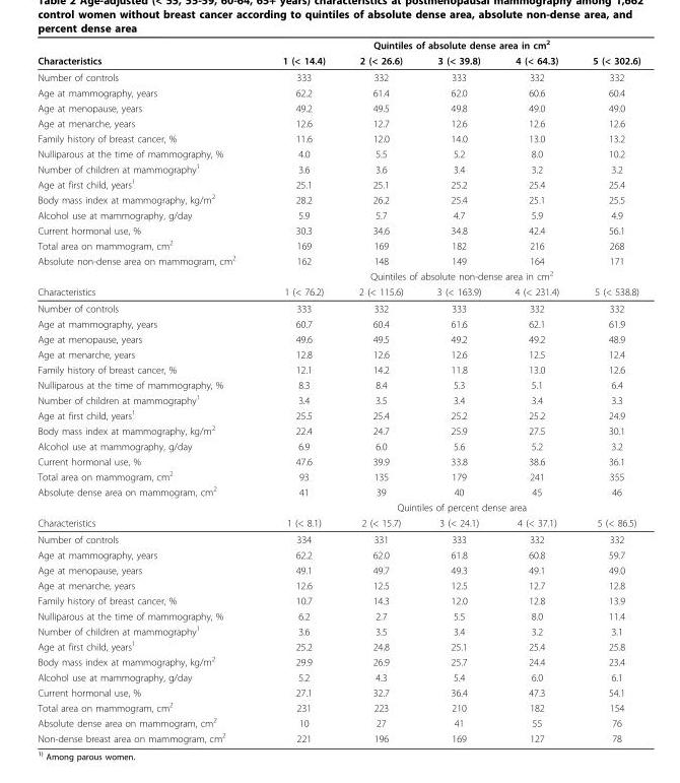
<table><thead><tr><td rowspan="2">Characteristics</td><td colspan="5">Quintiles of absolute dense area in cm<sup>2</sup></td></tr><tr><td>1 (&lt; 14.4)</td><td>2 (&lt; 26.6)</td><td>3 (&lt; 39.8)</td><td>4 (&lt; 64.3)</td><td>5 (&lt; 302.6)</td></tr></thead><tbody><tr><td>Number of controls</td><td>333</td><td>332</td><td>333</td><td>332</td><td>332</td></tr><tr><td>Age at mammography, years</td><td>62.2</td><td>61.4</td><td>62.0</td><td>60.6</td><td>60.4</td></tr><tr><td>Age at menopause, years</td><td>49.2</td><td>49.5</td><td>49.8</td><td>49.0</td><td>49.0</td></tr><tr><td>Age at menarche, years</td><td>12.6</td><td>12.7</td><td>12.6</td><td>12.6</td><td>12.6</td></tr><tr><td>Family history of breast cancer, %</td><td>11.6</td><td>12.0</td><td>14.0</td><td>13.0</td><td>13.2</td></tr><tr><td>Nulliparous at the time of mammography, %</td><td>4.0</td><td>5.5</td><td>5.2</td><td>8.0</td><td>10.2</td></tr><tr><td>Number of children at mammography<sup>1</sup></td><td>3.6</td><td>3.6</td><td>3.4</td><td>3.2</td><td>3.2</td></tr><tr><td>Age at first child, years<sup>1</sup></td><td>25.1</td><td>25.1</td><td>25.2</td><td>25.4</td><td>25.4</td></tr><tr><td>Body mass index at mammography, kg/m<sup>2</sup></td><td>28.2</td><td>26.2</td><td>25.4</td><td>25.1</td><td>25.5</td></tr><tr><td>Alcohol use at mammography, g/day</td><td>5.9</td><td>5.7</td><td>4.7</td><td>5.9</td><td>4.9</td></tr><tr><td>Current hormonal use, %</td><td>30.3</td><td>34.6</td><td>34.8</td><td>42.4</td><td>56.1</td></tr><tr><td>Total area on mammogram, cm<sup>2</sup></td><td>169</td><td>169</td><td>182</td><td>216</td><td>268</td></tr><tr><td rowspan="2">Absolute non-dense area on mammogram, cm<sup>2</sup></td><td>162</td><td>148</td><td>149</td><td>164</td><td>171</td></tr><tr><td colspan="5">Quintiles of absolute non-dense area in cm<sup>2</sup></td></tr><tr><td>Characteristics</td><td>1 (&lt; 76.2)</td><td>2 (&lt; 115.6)</td><td>3 (&lt; 163.9)</td><td>4 (&lt; 231.4)</td><td>5 (&lt; 538.8)</td></tr><tr><td>Number of controls</td><td>333</td><td>332</td><td>333</td><td>332</td><td>332</td></tr><tr><td>Age at mammography, years</td><td>60.7</td><td>60.4</td><td>61.6</td><td>62.1</td><td>61.9</td></tr><tr><td>Age at menopause, years</td><td>49.6</td><td>49.5</td><td>49.2</td><td>49.2</td><td>48.9</td></tr><tr><td>Age at menarche, years</td><td>12.8</td><td>12.6</td><td>12.6</td><td>12.5</td><td>12.4</td></tr><tr><td>Family history of breast cancer, %</td><td>12.1</td><td>14.2</td><td>11.8</td><td>13.0</td><td>12.6</td></tr><tr><td>Nulliparous at the time of mammography, %</td><td>8.3</td><td>8.4</td><td>5.3</td><td>5.1</td><td>6.4</td></tr><tr><td>Number of children at mammography<sup>1</sup></td><td>3.4</td><td>3.5</td><td>3.4</td><td>3.4</td><td>3.3</td></tr><tr><td>Age at first child, years<sup>1</sup></td><td>25.5</td><td>25.4</td><td>25.2</td><td>25.2</td><td>24.9</td></tr><tr><td>Body mass index at mammography, kg/m<sup>2</sup></td><td>22.4</td><td>24.7</td><td>25.9</td><td>27.5</td><td>30.1</td></tr><tr><td>Alcohol use at mammography, g/day</td><td>6.9</td><td>6.0</td><td>5.6</td><td>5.2</td><td>3.2</td></tr><tr><td>Current hormonal use, %</td><td>47.6</td><td>39.9</td><td>33.8</td><td>38.6</td><td>36.1</td></tr><tr><td>Total area on mammogram, cm<sup>2</sup></td><td>93</td><td>135</td><td>179</td><td>241</td><td>355</td></tr><tr><td rowspan="2">Absolute dense area on mammogram, cm<sup>2</sup></td><td>41</td><td>39</td><td>40</td><td>45</td><td>46</td></tr><tr><td colspan="5">Quintiles of percent dense area</td></tr><tr><td>Characteristics</td><td>1 (&lt; 8.1)</td><td>2 (&lt; 15.7)</td><td>3 (&lt; 24.1)</td><td>4 (&lt; 37.1)</td><td>5 (&lt; 86.5)</td></tr><tr><td>Number of controls</td><td>334</td><td>331</td><td>333</td><td>332</td><td>332</td></tr><tr><td>Age at mammography, years</td><td>62.2</td><td>62.0</td><td>61.8</td><td>60.8</td><td>59.7</td></tr><tr><td>Age at menopause, years</td><td>49.1</td><td>49.7</td><td>49.3</td><td>49.1</td><td>49.0</td></tr><tr><td>Age at menarche, years</td><td>12.6</td><td>12.5</td><td>12.5</td><td>12.7</td><td>12.8</td></tr><tr><td>Family history of breast cancer, %</td><td>10.7</td><td>14.3</td><td>12.0</td><td>12.8</td><td>13.9</td></tr><tr><td>Nulliparous at the time of mammography, %</td><td>6.2</td><td>2.7</td><td>5.5</td><td>8.0</td><td>11.4</td></tr><tr><td>Number of children at mammography<sup>1</sup></td><td>3.6</td><td>3.5</td><td>3.4</td><td>3.2</td><td>3.1</td></tr><tr><td>Age at first child, years<sup>1</sup></td><td>25.2</td><td>24.8</td><td>25.1</td><td>25.4</td><td>25.8</td></tr><tr><td>Body mass index at mammography, kg/m<sup>2</sup></td><td>29.9</td><td>26.9</td><td>25.7</td><td>24.4</td><td>23.4</td></tr><tr><td>Alcohol use at mammography, g/day</td><td>5.2</td><td>4.3</td><td>5.4</td><td>6.0</td><td>6.1</td></tr><tr><td>Current hormonal use, %</td><td>27.1</td><td>32.7</td><td>36.4</td><td>47.3</td><td>54.1</td></tr><tr><td>Total area on mammogram, cm<sup>2</sup></td><td>231</td><td>223</td><td>210</td><td>182</td><td>154</td></tr><tr><td>Absolute dense area on mammogram, cm<sup>2</sup></td><td>10</td><td>27</td><td>41</td><td>55</td><td>76</td></tr><tr><td>Non-dense breast area on mammogram, cm<sup>2</sup></td><td>221</td><td>196</td><td>169</td><td>127</td><td>78</td></tr></tbody></table>